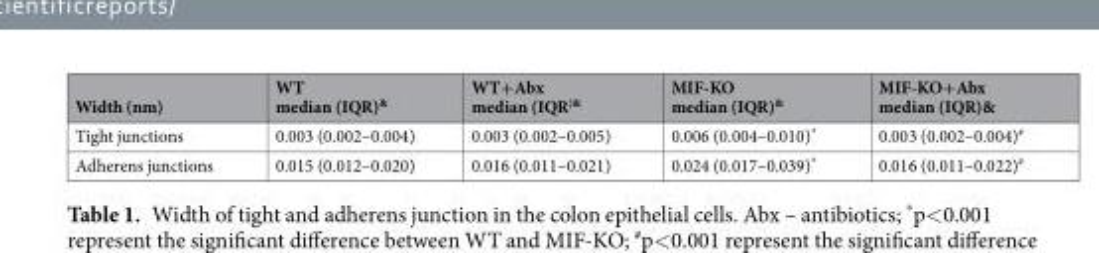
<table><thead><tr><td>Width (nm)</td><td>WT median (IQR)<sup>&amp;</sup></td><td>WT+Abx median (IQR<sup>)&amp;</sup></td><td>MIF-KO median (IQR)<sup>&amp;</sup></td><td>MIF-KO+Abx median (IQR)&amp;</td></tr></thead><tbody><tr><td>Tight junctions</td><td>0.003 (0.002–0.004)</td><td>0.003 (0.002–0.005)</td><td>0.006 (0.004–0.010)*</td><td>0.003 (0.002–0.004)<sup>#</sup></td></tr><tr><td>Adherens junctions</td><td>0.015 (0.012–0.020)</td><td>0.016 (0.011–0.021)</td><td>0.024 (0.017–0.039)*</td><td>0.016 (0.011–0.022)<sup>#</sup></td></tr></tbody></table>